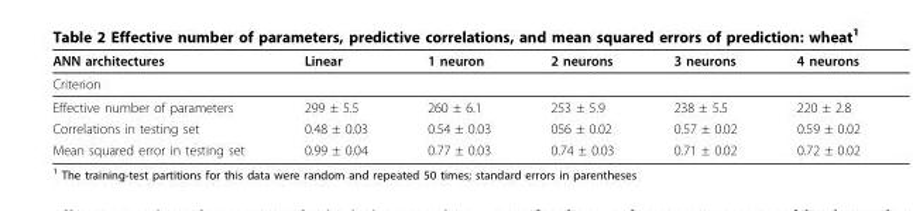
<table><thead><tr><td>ANN architectures</td><td>Linear</td><td>1 neuron</td><td>2 neurons</td><td>3 neurons</td><td>4 neurons</td></tr></thead><tbody><tr><td colspan="6">Criterion</td></tr><tr><td>Effective number of parameters</td><td>299 ± 5.5</td><td>260 ± 6.1</td><td>253 ± 5.9</td><td>238 ± 5.5</td><td>220 ± 2.8</td></tr><tr><td>Correlations in testing set</td><td>0.48 ± 0.03</td><td>0.54 ± 0.03</td><td>056 ± 0.02</td><td>0.57 ± 0.02</td><td>0.59 ± 0.02</td></tr><tr><td>Mean squared error in testing set</td><td>0.99 ± 0.04</td><td>0.77 ± 0.03</td><td>0.74 ± 0.03</td><td>0.71 ± 0.02</td><td>0.72 ± 0.02</td></tr></tbody></table>